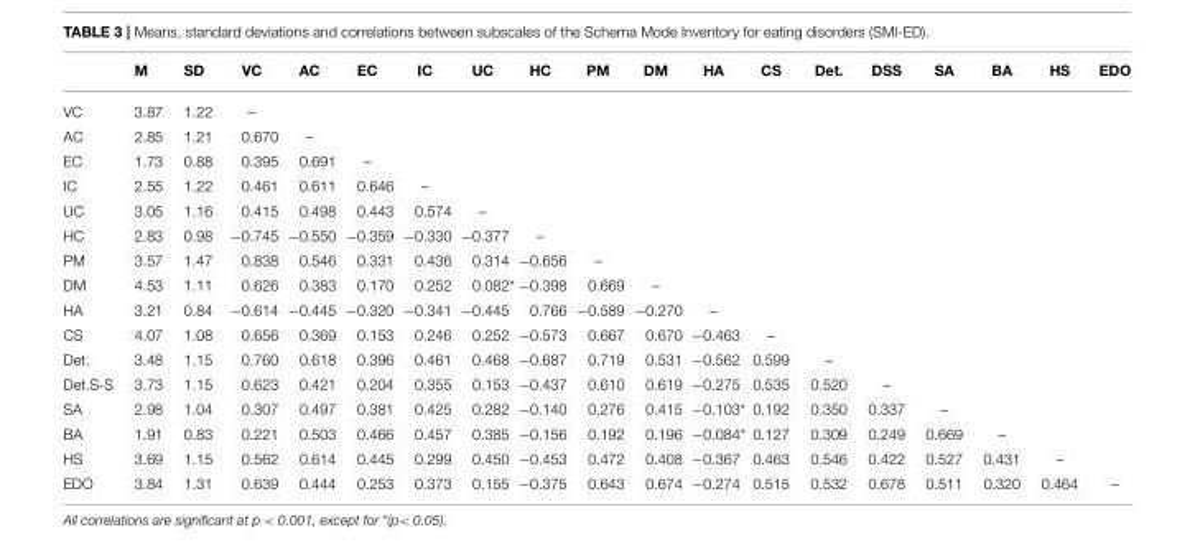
<table><thead><tr><td></td><td>M</td><td>SD</td><td>VC</td><td>AC</td><td>EC</td><td>IC</td><td>UC</td><td>HC</td><td>PM</td><td>DM</td><td>HA</td><td>CS</td><td>Det.</td><td>DSS</td><td>SA</td><td>BA</td><td>HS</td><td>EDO</td></tr></thead><tbody><tr><td>VC</td><td>3.87</td><td>1.22</td><td>–</td><td></td><td></td><td></td><td></td><td></td><td></td><td></td><td></td><td></td><td></td><td></td><td></td><td></td><td></td><td></td></tr><tr><td>AC</td><td>2.85</td><td>1.21</td><td>0.670</td><td>–</td><td></td><td></td><td></td><td></td><td></td><td></td><td></td><td></td><td></td><td></td><td></td><td></td><td></td><td></td></tr><tr><td>EC</td><td>1.73</td><td>0.88</td><td>0.395</td><td>0.691</td><td>–</td><td></td><td></td><td></td><td></td><td></td><td></td><td></td><td></td><td></td><td></td><td></td><td></td><td></td></tr><tr><td>IC</td><td>2.55</td><td>1.22</td><td>0.461</td><td>0.611</td><td>0.646</td><td>–</td><td></td><td></td><td></td><td></td><td></td><td></td><td></td><td></td><td></td><td></td><td></td><td></td></tr><tr><td>UC</td><td>3.05</td><td>1.16</td><td>0.415</td><td>0.498</td><td>0.443</td><td>0.574</td><td>–</td><td></td><td></td><td></td><td></td><td></td><td></td><td></td><td></td><td></td><td></td><td></td></tr><tr><td>HC</td><td>2.83</td><td>0.98</td><td>−0.745</td><td>−0.550</td><td>−0.359</td><td>−0.330</td><td>−0.377</td><td>–</td><td></td><td></td><td></td><td></td><td></td><td></td><td></td><td></td><td></td><td></td></tr><tr><td>PM</td><td>3.57</td><td>1.47</td><td>0.838</td><td>0.546</td><td>0.331</td><td>0.436</td><td>0.314</td><td>−0.656</td><td>–</td><td></td><td></td><td></td><td></td><td></td><td></td><td></td><td></td><td></td></tr><tr><td>DM</td><td>4.53</td><td>1.11</td><td>0.626</td><td>0.383</td><td>0.170</td><td>0.252</td><td>0.082*</td><td>−0.398</td><td>0.669</td><td>–</td><td></td><td></td><td></td><td></td><td></td><td></td><td></td><td></td></tr><tr><td>HA</td><td>3.21</td><td>0.84</td><td>−0.614</td><td>−0.445</td><td>−0.320</td><td>−0.341</td><td>−0.445</td><td>0.766</td><td>−0.589</td><td>−0.270</td><td>–</td><td></td><td></td><td></td><td></td><td></td><td></td><td></td></tr><tr><td>CS</td><td>4.07</td><td>1.08</td><td>0.656</td><td>0.369</td><td>0.153</td><td>0.246</td><td>0.252</td><td>−0.573</td><td>0.667</td><td>0.670</td><td>−0.463</td><td>–</td><td></td><td></td><td></td><td></td><td></td><td></td></tr><tr><td>Det.</td><td>3.48</td><td>1.15</td><td>0.760</td><td>0.618</td><td>0.396</td><td>0.461</td><td>0.468</td><td>−0.687</td><td>0.719</td><td>0.531</td><td>−0.562</td><td>0.599</td><td>–</td><td></td><td></td><td></td><td></td><td></td></tr><tr><td>Det.S-S</td><td>3.73</td><td>1.15</td><td>0.623</td><td>0.421</td><td>0.204</td><td>0.355</td><td>0.153</td><td>−0.437</td><td>0.610</td><td>0.619</td><td>−0.275</td><td>0.535</td><td>0.520</td><td>–</td><td></td><td></td><td></td><td></td></tr><tr><td>SA</td><td>2.98</td><td>1.04</td><td>0.307</td><td>0.497</td><td>0.381</td><td>0.425</td><td>0.282</td><td>−0.140</td><td>0.276</td><td>0.415</td><td>−0.103*</td><td>0.192</td><td>0.350</td><td>0.337</td><td>–</td><td></td><td></td><td></td></tr><tr><td>BA</td><td>1.91</td><td>0.83</td><td>0.221</td><td>0.503</td><td>0.466</td><td>0.457</td><td>0.385</td><td>−0.156</td><td>0.192</td><td>0.196</td><td>−0.084*</td><td>0.127</td><td>0.309</td><td>0.249</td><td>0.669</td><td>–</td><td></td><td></td></tr><tr><td>HS</td><td>3.69</td><td>1.15</td><td>0.562</td><td>0.614</td><td>0.445</td><td>0.299</td><td>0.450</td><td>−0.453</td><td>0.472</td><td>0.408</td><td>−0.367</td><td>0.463</td><td>0.546</td><td>0.422</td><td>0.527</td><td>0.431</td><td>–</td><td></td></tr><tr><td>EDO</td><td>3.84</td><td>1.31</td><td>0.639</td><td>0.444</td><td>0.253</td><td>0.373</td><td>0.155</td><td>−0.375</td><td>0.643</td><td>0.674</td><td>−0.274</td><td>0.515</td><td>0.532</td><td>0.678</td><td>0.511</td><td>0.320</td><td>0.464</td><td>–</td></tr></tbody></table>